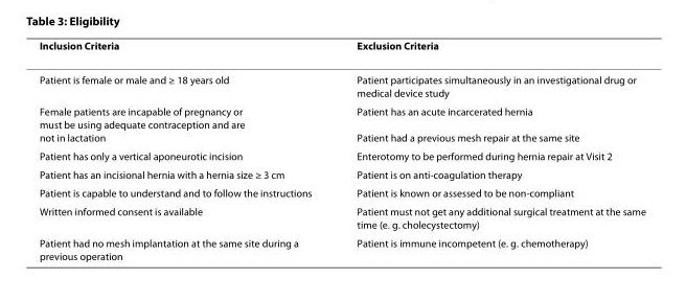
<table><thead><tr><td>Inclusion Criteria</td><td>Exclusion Criteria</td></tr></thead><tbody><tr><td>Patient is female or male and ≥ 18 years old</td><td>Patient participates simultaneously in an investigational drug or medical device study</td></tr><tr><td>Female patients are incapable of pregnancy or must be using adequate contraception and are not in lactation</td><td>Patient has an acute incarcerated hernia Patient had a previous mesh repair at the same site</td></tr><tr><td>Patient has only a vertical aponeurotic incision</td><td>Enterotomy to be performed during hernia repair at Visit 2</td></tr><tr><td>Patient has an incisional hernia with a hernia size ≥ 3 cm</td><td>Patient is on anti-coagulation therapy</td></tr><tr><td>Patient is capable to understand and to follow the instructions</td><td>Patient is known or assessed to be non-compliant</td></tr><tr><td>Written informed consent is available</td><td>Patient must not get any additional surgical treatment at the same time (e. g. cholecystectomy)</td></tr><tr><td>Patient had no mesh implantation at the same site during a previous operation</td><td>Patient is immune incompetent (e. g. chemotherapy)</td></tr></tbody></table>